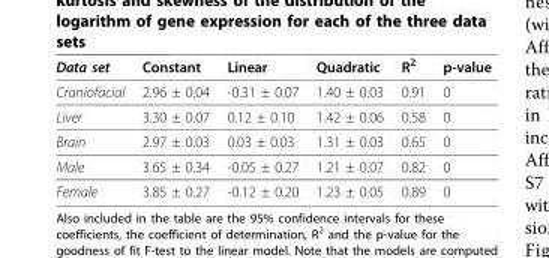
<table><thead><tr><td>Data set</td><td>Constant</td><td>Linear</td><td>Quadratic</td><td>R<sup>2</sup></td><td>p-value</td></tr></thead><tbody><tr><td>Craniofacial</td><td>2.96 ± 0.04</td><td>-0.31 ± 0.07</td><td>1.40 ± 0.03</td><td>0.91</td><td>0</td></tr><tr><td>Liver</td><td>3.30 ± 0.07</td><td>0.12 ± 0.10</td><td>1.42 ± 0.06</td><td>0.58</td><td>0</td></tr><tr><td>Brain</td><td>2.97 ± 0.03</td><td>0.03 ± 0.03</td><td>1.31 ± 0.03</td><td>0.65</td><td>0</td></tr><tr><td>Male</td><td>3.65 ± 0.34</td><td>-0.05 ± 0.27</td><td>1.21 ± 0.07</td><td>0.82</td><td>0</td></tr><tr><td>Female</td><td>3.85 ± 0.27</td><td>-0.12 ± 0.20</td><td>1.23 ± 0.05</td><td>0.89</td><td>0</td></tr></tbody></table>